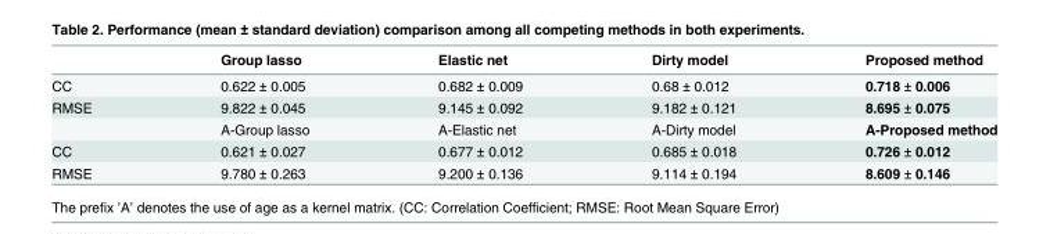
<table><thead><tr><td></td><td>Group lasso</td><td>Elastic net</td><td>Dirty model</td><td>Proposed method</td></tr></thead><tbody><tr><td>CC</td><td>0.622 ± 0.005</td><td>0.682 ± 0.009</td><td>0.68 ± 0.012</td><td>0.718 ± 0.006</td></tr><tr><td rowspan="2">RMSE</td><td>9.822 ± 0.045</td><td>9.145 ± 0.092</td><td>9.182 ± 0.121</td><td>8.695 ± 0.075</td></tr><tr><td>A-Group lasso</td><td>A-Elastic net</td><td>A-Dirty model</td><td>A-Proposed method</td></tr><tr><td>CC</td><td>0.621 ± 0.027</td><td>0.677 ± 0.012</td><td>0.685 ± 0.018</td><td>0.726 ± 0.012</td></tr><tr><td>RMSE</td><td>9.780 ± 0.263</td><td>9.200 ± 0.136</td><td>9.114 ± 0.194</td><td>8.609 ± 0.146</td></tr></tbody></table>